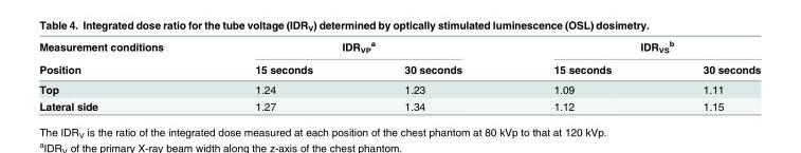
<table><thead><tr><td rowspan="2">Measurement conditions Position</td><td colspan="2">IDR<sub>VP</sub> <sup>a</sup></td><td colspan="2">IDR<sub>VS</sub> <sup>b</sup></td></tr><tr><td>15 seconds</td><td>30 seconds</td><td>15 seconds</td><td>30 seconds</td></tr></thead><tbody><tr><td>Top</td><td>1.24</td><td>1.23</td><td>1.09</td><td>1.11</td></tr><tr><td>Lateral side</td><td>1.27</td><td>1.34</td><td>1.12</td><td>1.15</td></tr></tbody></table>